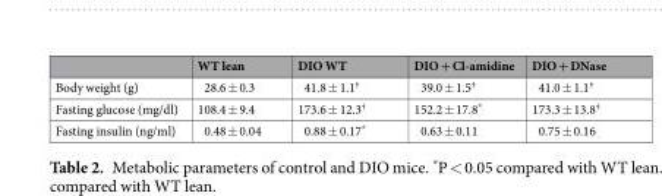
<table><thead><tr><td></td><td>WT lean</td><td>DIO WT</td><td>DIO + Cl-amidine</td><td>DIO + DNase</td></tr></thead><tbody><tr><td>Body weight (g)</td><td>28.6 ± 0.3</td><td>41.8 ± 1.1<sup>†</sup></td><td>39.0 ± 1.5<sup>†</sup></td><td>41.0 ± 1.1<sup>†</sup></td></tr><tr><td>Fasting glucose (mg/dl)</td><td>108.4 ± 9.4</td><td>173.6 ± 12.3<sup>†</sup></td><td>152.2 ± 17.8*</td><td>173.3 ± 13.8<sup>†</sup></td></tr><tr><td>Fasting insulin (ng/ml)</td><td>0.48 ± 0.04</td><td>0.88 ± 0.17*</td><td>0.63 ± 0.11</td><td>0.75 ± 0.16</td></tr></tbody></table>